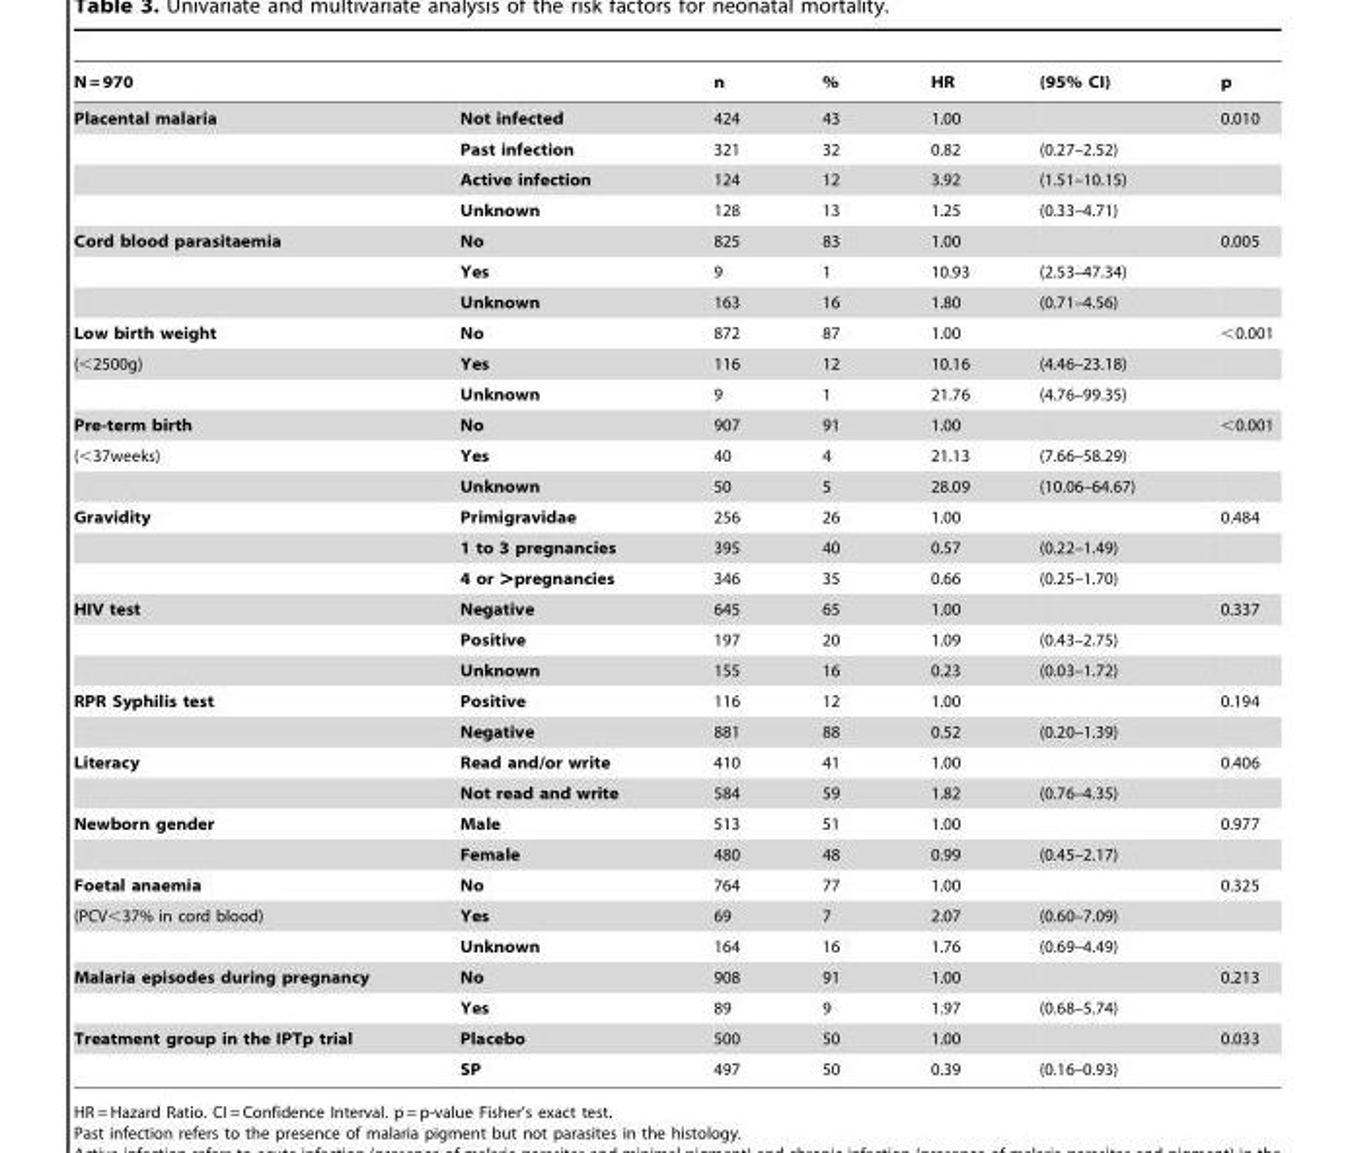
<table><thead><tr><td>N = 970</td><td></td><td>n</td><td>%</td><td>HR</td><td>(95% CI)</td><td>p</td></tr></thead><tbody><tr><td rowspan="4">Placental malaria</td><td>Not infected</td><td>424</td><td>43</td><td>1.00</td><td></td><td>0.010</td></tr><tr><td>Past infection</td><td>321</td><td>32</td><td>0.82</td><td>(0.27–2.52)</td><td></td></tr><tr><td>Active infection</td><td>124</td><td>12</td><td>3.92</td><td>(1.51–10.15)</td><td></td></tr><tr><td>Unknown</td><td>128</td><td>13</td><td>1.25</td><td>(0.33–4.71)</td><td></td></tr><tr><td rowspan="3">Cord blood parasitaemia</td><td>No</td><td>825</td><td>83</td><td>1.00</td><td></td><td>0.005</td></tr><tr><td>Yes</td><td>9</td><td>1</td><td>10.93</td><td>(2.53–47.34)</td><td></td></tr><tr><td>Unknown</td><td>163</td><td>16</td><td>1.80</td><td>(0.71–4.56)</td><td></td></tr><tr><td>Low birth weight</td><td>No</td><td>872</td><td>87</td><td>1.00</td><td></td><td>&lt;0.001</td></tr><tr><td rowspan="2">(&lt;2500g)</td><td>Yes</td><td>116</td><td>12</td><td>10.16</td><td>(4.46–23.18)</td><td></td></tr><tr><td>Unknown</td><td>9</td><td>1</td><td>21.76</td><td>(4.76–99.35)</td><td></td></tr><tr><td>Pre-term birth</td><td>No</td><td>907</td><td>91</td><td>1.00</td><td></td><td>&lt;0.001</td></tr><tr><td rowspan="2">(&lt;37weeks)</td><td>Yes</td><td>40</td><td>4</td><td>21.13</td><td>(7.66–58.29)</td><td></td></tr><tr><td>Unknown</td><td>50</td><td>5</td><td>28.09</td><td>(10.06–64.67)</td><td></td></tr><tr><td rowspan="3">Gravidity</td><td>Primigravidae</td><td>256</td><td>26</td><td>1.00</td><td></td><td>0.484</td></tr><tr><td>1 to 3 pregnancies</td><td>395</td><td>40</td><td>0.57</td><td>(0.22–1.49)</td><td></td></tr><tr><td>4 or &gt;pregnancies</td><td>346</td><td>35</td><td>0.66</td><td>(0.25–1.70)</td><td></td></tr><tr><td rowspan="3">HIV test</td><td>Negative</td><td>645</td><td>65</td><td>1.00</td><td></td><td>0.337</td></tr><tr><td>Positive</td><td>197</td><td>20</td><td>1.09</td><td>(0.43–2.75)</td><td></td></tr><tr><td>Unknown</td><td>155</td><td>16</td><td>0.23</td><td>(0.03–1.72)</td><td></td></tr><tr><td rowspan="2">RPR Syphilis test</td><td>Positive</td><td>116</td><td>12</td><td>1.00</td><td></td><td>0.194</td></tr><tr><td>Negative</td><td>881</td><td>88</td><td>0.52</td><td>(0.20–1.39)</td><td></td></tr><tr><td rowspan="2">Literacy</td><td>Read and/or write</td><td>410</td><td>41</td><td>1.00</td><td></td><td>0.406</td></tr><tr><td>Not read and write</td><td>584</td><td>59</td><td>1.82</td><td>(0.76–4.35)</td><td></td></tr><tr><td rowspan="2">Newborn gender</td><td>Male</td><td>513</td><td>51</td><td>1.00</td><td></td><td>0.977</td></tr><tr><td>Female</td><td>480</td><td>48</td><td>0.99</td><td>(0.45–2.17)</td><td></td></tr><tr><td>Foetal anaemia</td><td>No</td><td>764</td><td>77</td><td>1.00</td><td></td><td>0.325</td></tr><tr><td rowspan="2">(PCV&lt;37% in cord blood)</td><td>Yes</td><td>69</td><td>7</td><td>2.07</td><td>(0.60–7.09)</td><td></td></tr><tr><td>Unknown</td><td>164</td><td>16</td><td>1.76</td><td>(0.69–4.49)</td><td></td></tr><tr><td rowspan="2">Malaria episodes during pregnancy</td><td>No</td><td>908</td><td>91</td><td>1.00</td><td></td><td>0.213</td></tr><tr><td>Yes</td><td>89</td><td>9</td><td>1.97</td><td>(0.68–5.74)</td><td></td></tr><tr><td rowspan="2">Treatment group in the IPTp trial</td><td>Placebo</td><td>500</td><td>50</td><td>1.00</td><td></td><td>0.033</td></tr><tr><td>SP</td><td>497</td><td>50</td><td>0.39</td><td>(0.16–0.93)</td><td></td></tr></tbody></table>